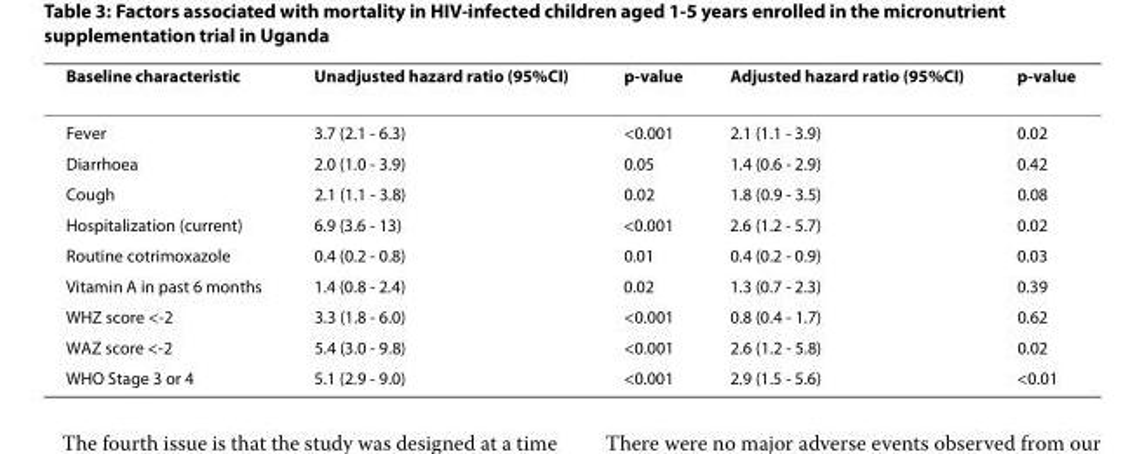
<table><thead><tr><td>Baseline characteristic</td><td>Unadjusted hazard ratio (95%CI)</td><td>p-value</td><td>Adjusted hazard ratio (95%CI)</td><td>p-value</td></tr></thead><tbody><tr><td>Fever</td><td>3.7 (2.1 - 6.3)</td><td>&lt;0.001</td><td>2.1 (1.1 - 3.9)</td><td>0.02</td></tr><tr><td>Diarrhoea</td><td>2.0 (1.0 - 3.9)</td><td>0.05</td><td>1.4 (0.6 - 2.9)</td><td>0.42</td></tr><tr><td>Cough</td><td>2.1 (1.1 - 3.8)</td><td>0.02</td><td>1.8 (0.9 - 3.5)</td><td>0.08</td></tr><tr><td>Hospitalization (current)</td><td>6.9 (3.6 - 13)</td><td>&lt;0.001</td><td>2.6 (1.2 - 5.7)</td><td>0.02</td></tr><tr><td>Routine cotrimoxazole</td><td>0.4 (0.2 - 0.8)</td><td>0.01</td><td>0.4 (0.2 - 0.9)</td><td>0.03</td></tr><tr><td>Vitamin A in past 6 months</td><td>1.4 (0.8 - 2.4)</td><td>0.02</td><td>1.3 (0.7 - 2.3)</td><td>0.39</td></tr><tr><td>WHZ score &lt;-2</td><td>3.3 (1.8 - 6.0)</td><td>&lt;0.001</td><td>0.8 (0.4 - 1.7)</td><td>0.62</td></tr><tr><td>WAZ score &lt;-2</td><td>5.4 (3.0 - 9.8)</td><td>&lt;0.001</td><td>2.6 (1.2 - 5.8)</td><td>0.02</td></tr><tr><td>WHO Stage 3 or 4</td><td>5.1 (2.9 - 9.0)</td><td>&lt;0.001</td><td>2.9 (1.5 - 5.6)</td><td>&lt;0.01</td></tr></tbody></table>